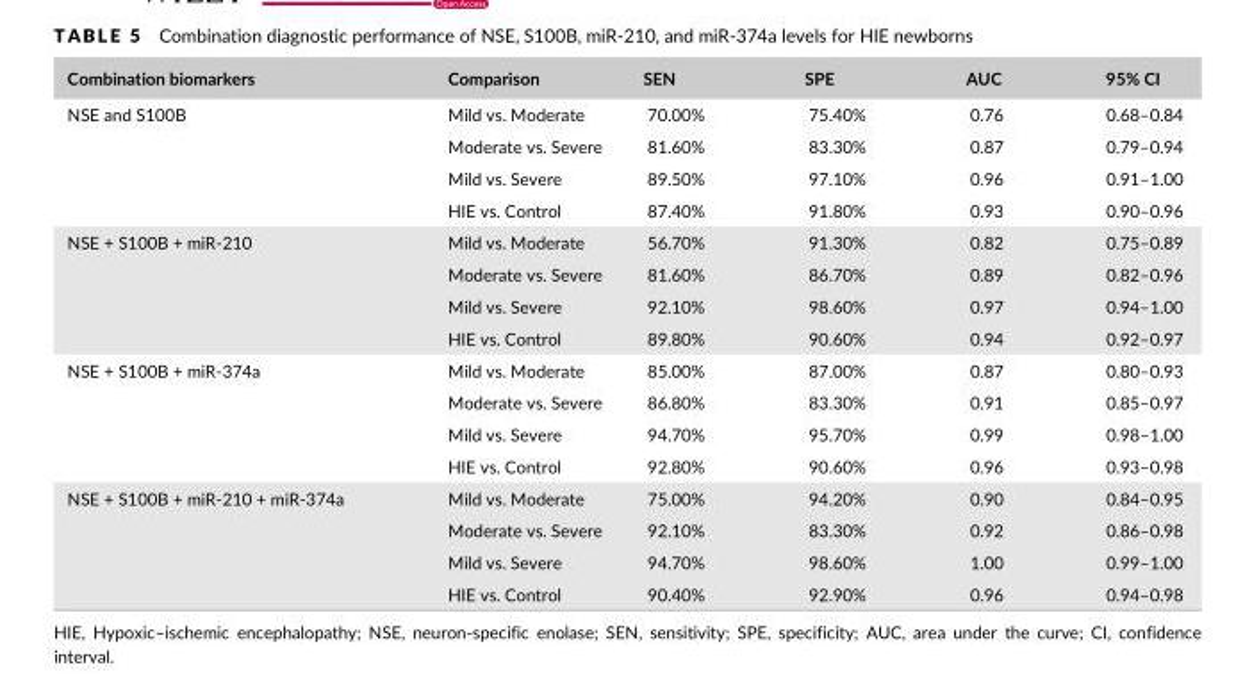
<table><thead><tr><td>Combination biomarkers</td><td>Comparison</td><td>SEN</td><td>SPE</td><td>AUC</td><td>95% CI</td></tr></thead><tbody><tr><td rowspan="4">NSE and S100B</td><td>Mild vs. Moderate</td><td>70.00%</td><td>75.40%</td><td>0.76</td><td>0.68–0.84</td></tr><tr><td>Moderate vs. Severe</td><td>81.60%</td><td>83.30%</td><td>0.87</td><td>0.79–0.94</td></tr><tr><td>Mild vs. Severe</td><td>89.50%</td><td>97.10%</td><td>0.96</td><td>0.91–1.00</td></tr><tr><td>HIE vs. Control</td><td>87.40%</td><td>91.80%</td><td>0.93</td><td>0.90–0.96</td></tr><tr><td rowspan="4">NSE + S100B + miR- 210</td><td>Mild vs. Moderate</td><td>56.70%</td><td>91.30%</td><td>0.82</td><td>0.75–0.89</td></tr><tr><td>Moderate vs. Severe</td><td>81.60%</td><td>86.70%</td><td>0.89</td><td>0.82–0.96</td></tr><tr><td>Mild vs. Severe</td><td>92.10%</td><td>98.60%</td><td>0.97</td><td>0.94–1.00</td></tr><tr><td>HIE vs. Control</td><td>89.80%</td><td>90.60%</td><td>0.94</td><td>0.92–0.97</td></tr><tr><td rowspan="4">NSE + S100B + miR- 374a</td><td>Mild vs. Moderate</td><td>85.00%</td><td>87.00%</td><td>0.87</td><td>0.80–0.93</td></tr><tr><td>Moderate vs. Severe</td><td>86.80%</td><td>83.30%</td><td>0.91</td><td>0.85–0.97</td></tr><tr><td>Mild vs. Severe</td><td>94.70%</td><td>95.70%</td><td>0.99</td><td>0.98–1.00</td></tr><tr><td>HIE vs. Control</td><td>92.80%</td><td>90.60%</td><td>0.96</td><td>0.93–0.98</td></tr><tr><td rowspan="4">NSE + S100B + miR- 210 + miR- 374a</td><td>Mild vs. Moderate</td><td>75.00%</td><td>94.20%</td><td>0.90</td><td>0.84–0.95</td></tr><tr><td>Moderate vs. Severe</td><td>92.10%</td><td>83.30%</td><td>0.92</td><td>0.86–0.98</td></tr><tr><td>Mild vs. Severe</td><td>94.70%</td><td>98.60%</td><td>1.00</td><td>0.99–1.00</td></tr><tr><td>HIE vs. Control</td><td>90.40%</td><td>92.90%</td><td>0.96</td><td>0.94–0.98</td></tr></tbody></table>